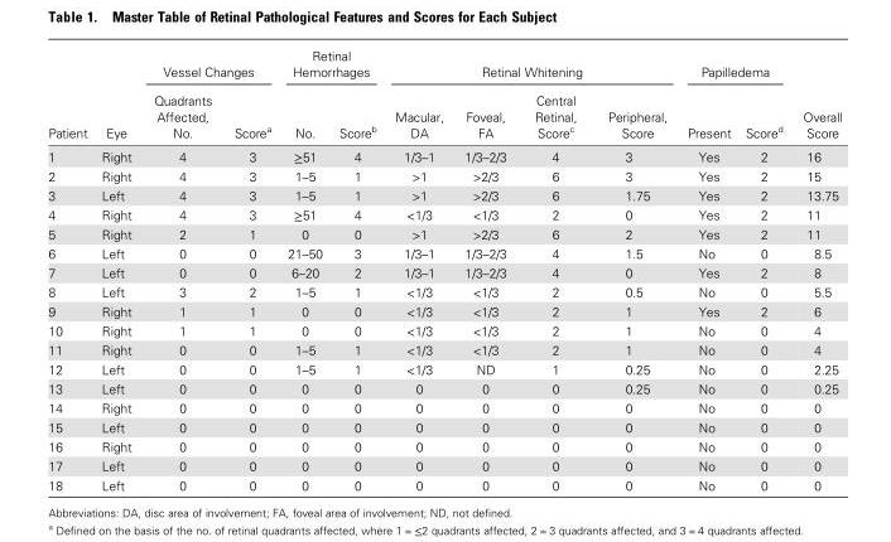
<table><thead><tr><td rowspan="2">Patient</td><td rowspan="2">Eye</td><td colspan="2">Vessel Changes</td><td colspan="2">Retinal Hemorrhages</td><td colspan="4">Retinal Whitening</td><td colspan="2">Papilledema</td><td rowspan="2">Overall Score</td></tr><tr><td>Quadrants Affected, No.</td><td>Score<sup>a</sup></td><td>No.</td><td>Score<sup>b</sup></td><td>Macular, DA</td><td>Foveal, FA</td><td>Central Retinal, Score<sup>c</sup></td><td>Peripheral, Score</td><td>Present</td><td>Score<sup>d</sup></td></tr></thead><tbody><tr><td>1</td><td>Right</td><td>4</td><td>3</td><td>≥51</td><td>4</td><td>1/3–1</td><td>1/3–2/3</td><td>4</td><td>3</td><td>Yes</td><td>2</td><td>16</td></tr><tr><td>2</td><td>Right</td><td>4</td><td>3</td><td>1–5</td><td>1</td><td>&gt;1</td><td>&gt;2/3</td><td>6</td><td>3</td><td>Yes</td><td>2</td><td>15</td></tr><tr><td>3</td><td>Left</td><td>4</td><td>3</td><td>1–5</td><td>1</td><td>&gt;1</td><td>&gt;2/3</td><td>6</td><td>1.75</td><td>Yes</td><td>2</td><td>13.75</td></tr><tr><td>4</td><td>Right</td><td>4</td><td>3</td><td>≥51</td><td>4</td><td>&lt;1/3</td><td>&lt;1/3</td><td>2</td><td>0</td><td>Yes</td><td>2</td><td>11</td></tr><tr><td>5</td><td>Right</td><td>2</td><td>1</td><td>0</td><td>0</td><td>&gt;1</td><td>&gt;2/3</td><td>6</td><td>2</td><td>Yes</td><td>2</td><td>11</td></tr><tr><td>6</td><td>Left</td><td>0</td><td>0</td><td>21–50</td><td>3</td><td>1/3–1</td><td>1/3–2/3</td><td>4</td><td>1.5</td><td>No</td><td>0</td><td>8.5</td></tr><tr><td>7</td><td>Left</td><td>0</td><td>0</td><td>6–20</td><td>2</td><td>1/3–1</td><td>1/3–2/3</td><td>4</td><td>0</td><td>Yes</td><td>2</td><td>8</td></tr><tr><td>8</td><td>Left</td><td>3</td><td>2</td><td>1–5</td><td>1</td><td>&lt;1/3</td><td>&lt;1/3</td><td>2</td><td>0.5</td><td>No</td><td>0</td><td>5.5</td></tr><tr><td>9</td><td>Right</td><td>1</td><td>1</td><td>0</td><td>0</td><td>&lt;1/3</td><td>&lt;1/3</td><td>2</td><td>1</td><td>Yes</td><td>2</td><td>6</td></tr><tr><td>10</td><td>Right</td><td>1</td><td>1</td><td>0</td><td>0</td><td>&lt;1/3</td><td>&lt;1/3</td><td>2</td><td>1</td><td>No</td><td>0</td><td>4</td></tr><tr><td>11</td><td>Right</td><td>0</td><td>0</td><td>1–5</td><td>1</td><td>&lt;1/3</td><td>&lt;1/3</td><td>2</td><td>1</td><td>No</td><td>0</td><td>4</td></tr><tr><td>12</td><td>Left</td><td>0</td><td>0</td><td>1–5</td><td>1</td><td>&lt;1/3</td><td>ND</td><td>1</td><td>0.25</td><td>No</td><td>0</td><td>2.25</td></tr><tr><td>13</td><td>Left</td><td>0</td><td>0</td><td>0</td><td>0</td><td>0</td><td>0</td><td>0</td><td>0.25</td><td>No</td><td>0</td><td>0.25</td></tr><tr><td>14</td><td>Right</td><td>0</td><td>0</td><td>0</td><td>0</td><td>0</td><td>0</td><td>0</td><td>0</td><td>No</td><td>0</td><td>0</td></tr><tr><td>15</td><td>Left</td><td>0</td><td>0</td><td>0</td><td>0</td><td>0</td><td>0</td><td>0</td><td>0</td><td>No</td><td>0</td><td>0</td></tr><tr><td>16</td><td>Right</td><td>0</td><td>0</td><td>0</td><td>0</td><td>0</td><td>0</td><td>0</td><td>0</td><td>No</td><td>0</td><td>0</td></tr><tr><td>17</td><td>Left</td><td>0</td><td>0</td><td>0</td><td>0</td><td>0</td><td>0</td><td>0</td><td>0</td><td>No</td><td>0</td><td>0</td></tr><tr><td>18</td><td>Left</td><td>0</td><td>0</td><td>0</td><td>0</td><td>0</td><td>0</td><td>0</td><td>0</td><td>No</td><td>0</td><td>0</td></tr></tbody></table>